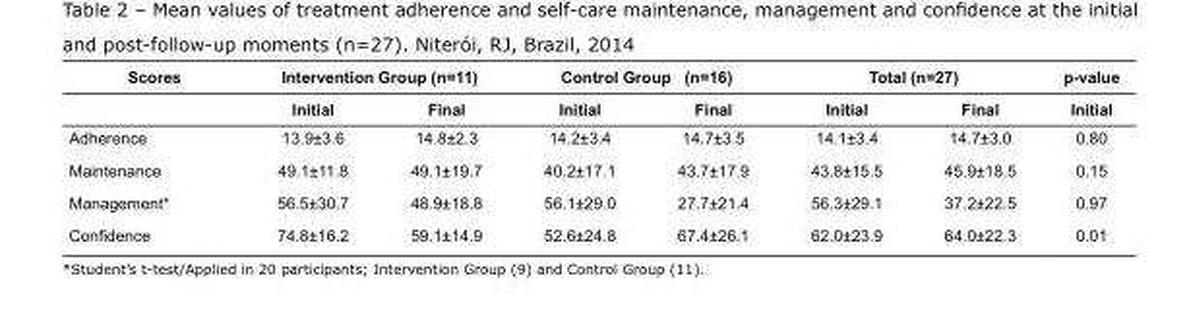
<table><tbody><tr><td rowspan="2">Scores</td><td colspan="2">Intervention Group (n=11)</td><td colspan="2">Control Group (n=16)</td><td colspan="2">Total (n=27)</td><td>p-value</td></tr><tr><td>Initial</td><td>Final</td><td>Initial</td><td>Final</td><td>Initial</td><td>Final</td><td>Initial</td></tr><tr><td>Adherence</td><td>13.9±3.6</td><td>14.8±2.3</td><td>14.2±3.4</td><td>14.7±3.5</td><td>14.1±3.4</td><td>14.7±3.0</td><td>0.80</td></tr><tr><td>Maintenance</td><td>49.1±11.8</td><td>49.1±19.7</td><td>40.2±17.1</td><td>43.7±17.9</td><td>43.8±15.5</td><td>45.9±18.5</td><td>0.15</td></tr><tr><td>Management*</td><td>56.5±30.7</td><td>48.9±18.8</td><td>56.1±29.0</td><td>27.7±21.4</td><td>56.3±29.1</td><td>37.2±22.5</td><td>0.97</td></tr><tr><td>Confidence</td><td>74.8±16.2</td><td>59.1±14.9</td><td>52.6±24.8</td><td>67.4±26.1</td><td>62.0±23.9</td><td>64.0±22.3</td><td>0.01</td></tr></tbody></table>